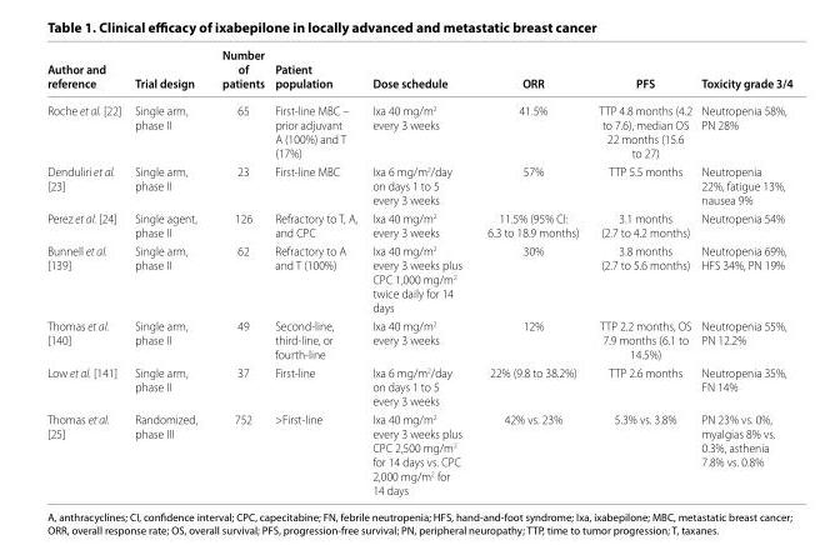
<table><thead><tr><td>Author and reference</td><td>Trial design</td><td>Number of patients</td><td>Patient population</td><td>Dose schedule</td><td>ORR</td><td>PFS</td><td>Toxicity grade 3/4</td></tr></thead><tbody><tr><td>Roche et al. [22]</td><td>Single arm, phase II</td><td>65</td><td>First-line MBC – prior adjuvant A (100%) and T (17%)</td><td>Ixa 40 mg/m<sup>2</sup> every 3 weeks</td><td>41.5%</td><td>TTP 4.8 months (4.2 to 7.6), median OS 22 months (15.6 to 27)</td><td>Neutropenia 58%, PN 28%</td></tr><tr><td>Denduliri et al. [23]</td><td>Single arm, phase II</td><td>23</td><td>First-line MBC</td><td>Ixa 6 mg/m<sup>2</sup>/day on days 1 to 5 every 3 weeks</td><td>57%</td><td>TTP 5.5 months</td><td>Neutropenia 22%, fatigue 13%, nausea 9%</td></tr><tr><td>Perez et al. [24]</td><td>Single agent, phase II</td><td>126</td><td>Refractory to T, A, and CPC</td><td>Ixa 40 mg/m<sup>2</sup> every 3 weeks</td><td>11.5% (95% CI: 6.3 to 18.9 months)</td><td>3.1 months (2.7 to 4.2 months)</td><td>Neutropenia 54%</td></tr><tr><td>Bunnell et al. [139]</td><td>Single arm, phase II</td><td>62</td><td>Refractory to A and T (100%)</td><td>Ixa 40 mg/m<sup>2</sup> every 3 weeks plus CPC 1,000 mg/m<sup>2</sup> twice daily for 14 days</td><td>30%</td><td>3.8 months (2.7 to 5.6 months)</td><td>Neutropenia 69%, HFS 34%, PN 19%</td></tr><tr><td>Thomas et al. [140]</td><td>Single arm, phase II</td><td>49</td><td>Second-line, third-line, or fourth-line</td><td>Ixa 40 mg/m<sup>2</sup> every 3 weeks</td><td>12%</td><td>TTP 2.2 months, OS 7.9 months (6.1 to 14.5%)</td><td>Neutropenia 55%, PN 12.2%</td></tr><tr><td>Low et al. [141]</td><td>Single arm, phase II</td><td>37</td><td>First-line</td><td>Ixa 6 mg/m<sup>2</sup>/day on days 1 to 5 every 3 weeks</td><td>22% (9.8 to 38.2%)</td><td>TTP 2.6 months</td><td>Neutropenia 35%, FN 14%</td></tr><tr><td>Thomas et al. [25]</td><td>Randomized, phase III</td><td>752</td><td>&gt;First-line</td><td>Ixa 40 mg/m<sup>2</sup> every 3 weeks plus CPC 2,500 mg/m<sup>2</sup> for 14 days vs. CPC 2,000 mg/m<sup>2</sup> for 14 days</td><td>42% vs. 23%</td><td>5.3% vs. 3.8%</td><td>PN 23% vs. 0%, myalgias 8% vs. 0.3%, asthenia 7.8% vs. 0.8%</td></tr></tbody></table>